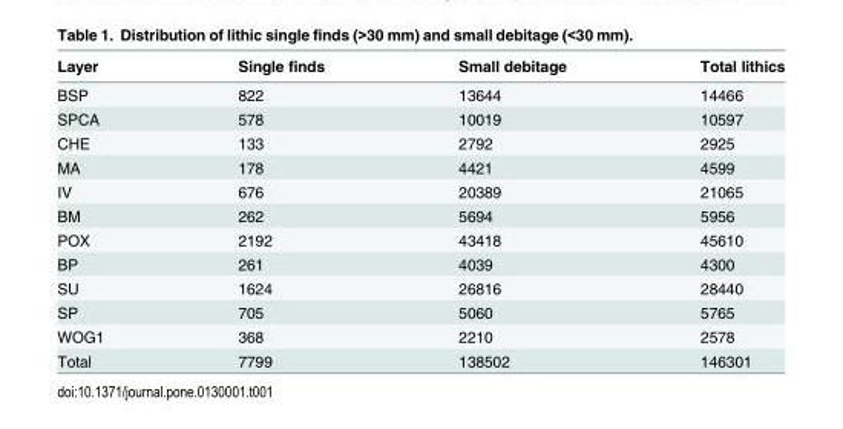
<table><thead><tr><td>Layer</td><td>Single finds</td><td>Small debitage</td><td>Total lithics</td></tr></thead><tbody><tr><td>BSP</td><td>822</td><td>13644</td><td>14466</td></tr><tr><td>SPCA</td><td>578</td><td>10019</td><td>10597</td></tr><tr><td>CHE</td><td>133</td><td>2792</td><td>2925</td></tr><tr><td>MA</td><td>178</td><td>4421</td><td>4599</td></tr><tr><td>IV</td><td>676</td><td>20389</td><td>21065</td></tr><tr><td>BM</td><td>262</td><td>5694</td><td>5956</td></tr><tr><td>POX</td><td>2192</td><td>43418</td><td>45610</td></tr><tr><td>BP</td><td>261</td><td>4039</td><td>4300</td></tr><tr><td>SU</td><td>1624</td><td>26816</td><td>28440</td></tr><tr><td>SP</td><td>705</td><td>5060</td><td>5765</td></tr><tr><td>WOG1</td><td>368</td><td>2210</td><td>2578</td></tr><tr><td>Total</td><td>7799</td><td>138502</td><td>146301</td></tr></tbody></table>